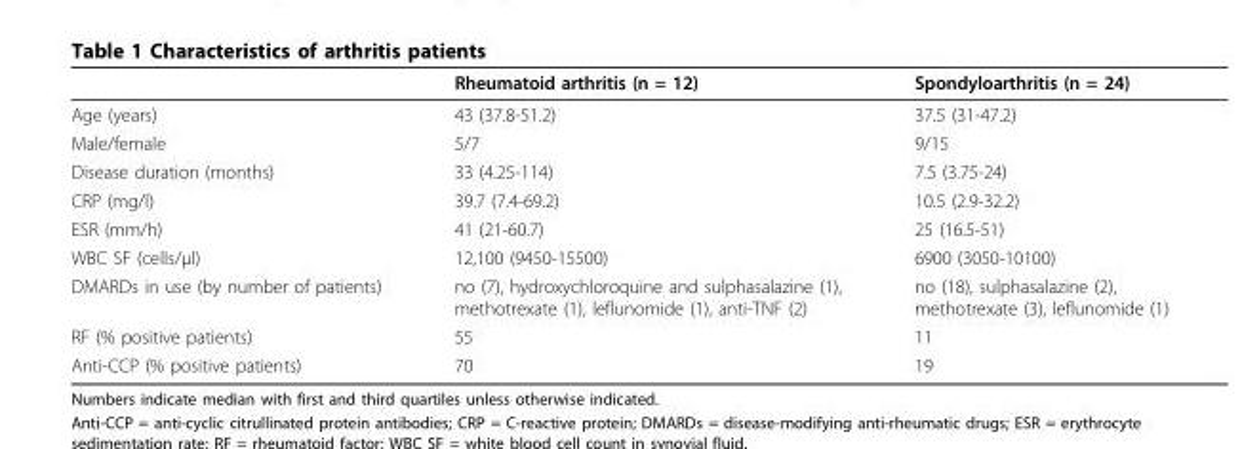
<table><thead><tr><td></td><td>Rheumatoid arthritis (n = 12)</td><td>Spondyloarthritis (n = 24)</td></tr></thead><tbody><tr><td>Age (years)</td><td>43 (37.8-51.2)</td><td>37.5 (31-47.2)</td></tr><tr><td>Male/female</td><td>5/7</td><td>9/15</td></tr><tr><td>Disease duration (months)</td><td>33 (4.25-114)</td><td>7.5 (3.75-24)</td></tr><tr><td>CRP (mg/l)</td><td>39.7 (7.4-69.2)</td><td>10.5 (2.9-32.2)</td></tr><tr><td>ESR (mm/h)</td><td>41 (21-60.7)</td><td>25 (16.5-51)</td></tr><tr><td>WBC SF (cells/μl)</td><td>12,100 (9450-15500)</td><td>6900 (3050-10100)</td></tr><tr><td>DMARDs in use (by number of patients)</td><td>no (7), hydroxychloroquine and sulphasalazine (1), methotrexate (1), leflunomide (1), anti-TNF (2)</td><td>no (18), sulphasalazine (2), methotrexate (3), leflunomide (1)</td></tr><tr><td>RF (% positive patients)</td><td>55</td><td>11</td></tr><tr><td>Anti-CCP (% positive patients)</td><td>70</td><td>19</td></tr></tbody></table>